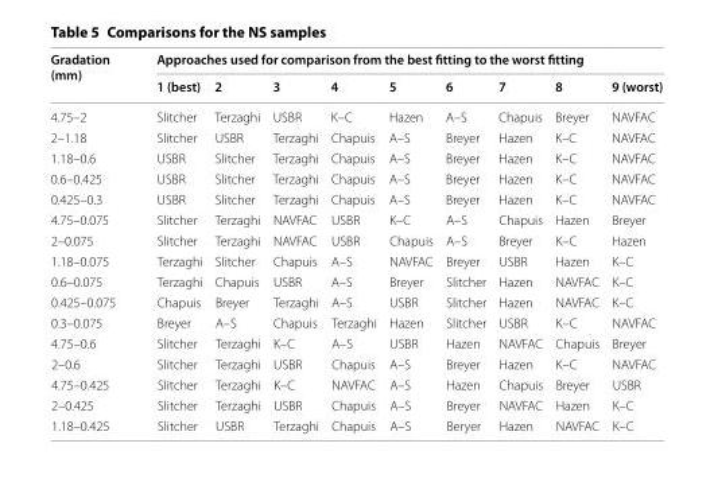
<table><thead><tr><td rowspan="2">Gradation (mm)</td><td colspan="9">Approaches used for comparison from the best fitting to the worst fitting</td></tr><tr><td>1 (best)</td><td>2</td><td>3</td><td>4</td><td>5</td><td>6</td><td>7</td><td>8</td><td>9 (worst)</td></tr></thead><tbody><tr><td>4.75–2</td><td>Slitcher</td><td>Terzaghi</td><td>USBR</td><td>K–C</td><td>Hazen</td><td>A–S</td><td>Chapuis</td><td>Breyer</td><td>NAVFAC</td></tr><tr><td>2–1.18</td><td>Slitcher</td><td>USBR</td><td>Terzaghi</td><td>Chapuis</td><td>A–S</td><td>Breyer</td><td>Hazen</td><td>K–C</td><td>NAVFAC</td></tr><tr><td>1.18–0.6</td><td>USBR</td><td>Slitcher</td><td>Terzaghi</td><td>Chapuis</td><td>A–S</td><td>Breyer</td><td>Hazen</td><td>K–C</td><td>NAVFAC</td></tr><tr><td>0.6–0.425</td><td>USBR</td><td>Slitcher</td><td>Terzaghi</td><td>Chapuis</td><td>A–S</td><td>Breyer</td><td>Hazen</td><td>K–C</td><td>NAVFAC</td></tr><tr><td>0.425–0.3</td><td>USBR</td><td>Slitcher</td><td>Terzaghi</td><td>Chapuis</td><td>A–S</td><td>Breyer</td><td>Hazen</td><td>K–C</td><td>NAVFAC</td></tr><tr><td>4.75–0.075</td><td>Slitcher</td><td>Terzaghi</td><td>NAVFAC</td><td>USBR</td><td>K–C</td><td>A–S</td><td>Chapuis</td><td>Hazen</td><td>Breyer</td></tr><tr><td>2–0.075</td><td>Slitcher</td><td>Terzaghi</td><td>NAVFAC</td><td>USBR</td><td>Chapuis</td><td>A–S</td><td>Breyer</td><td>K–C</td><td>Hazen</td></tr><tr><td>1.18–0.075</td><td>Terzaghi</td><td>Slitcher</td><td>Chapuis</td><td>A–S</td><td>NAVFAC</td><td>Breyer</td><td>USBR</td><td>Hazen</td><td>K–C</td></tr><tr><td>0.6–0.075</td><td>Terzaghi</td><td>Chapuis</td><td>USBR</td><td>A–S</td><td>Breyer</td><td>Slitcher</td><td>Hazen</td><td>NAVFAC</td><td>K–C</td></tr><tr><td>0.425–0.075</td><td>Chapuis</td><td>Breyer</td><td>Terzaghi</td><td>A–S</td><td>USBR</td><td>Slitcher</td><td>Hazen</td><td>NAVFAC</td><td>K–C</td></tr><tr><td>0.3–0.075</td><td>Breyer</td><td>A–S</td><td>Chapuis</td><td>Terzaghi</td><td>Hazen</td><td>Slitcher</td><td>USBR</td><td>K–C</td><td>NAVFAC</td></tr><tr><td>4.75–0.6</td><td>Slitcher</td><td>Terzaghi</td><td>K–C</td><td>A–S</td><td>USBR</td><td>Hazen</td><td>NAVFAC</td><td>Chapuis</td><td>Breyer</td></tr><tr><td>2–0.6</td><td>Slitcher</td><td>Terzaghi</td><td>USBR</td><td>Chapuis</td><td>A–S</td><td>Breyer</td><td>Hazen</td><td>K–C</td><td>NAVFAC</td></tr><tr><td>4.75–0.425</td><td>Slitcher</td><td>Terzaghi</td><td>K–C</td><td>NAVFAC</td><td>A–S</td><td>Hazen</td><td>Chapuis</td><td>Breyer</td><td>USBR</td></tr><tr><td>2–0.425</td><td>Slitcher</td><td>Terzaghi</td><td>USBR</td><td>Chapuis</td><td>A–S</td><td>Breyer</td><td>NAVFAC</td><td>Hazen</td><td>K–C</td></tr><tr><td>1.18–0.425</td><td>Slitcher</td><td>USBR</td><td>Terzaghi</td><td>Chapuis</td><td>A–S</td><td>Beryer</td><td>Hazen</td><td>NAVFAC</td><td>K–C</td></tr></tbody></table>